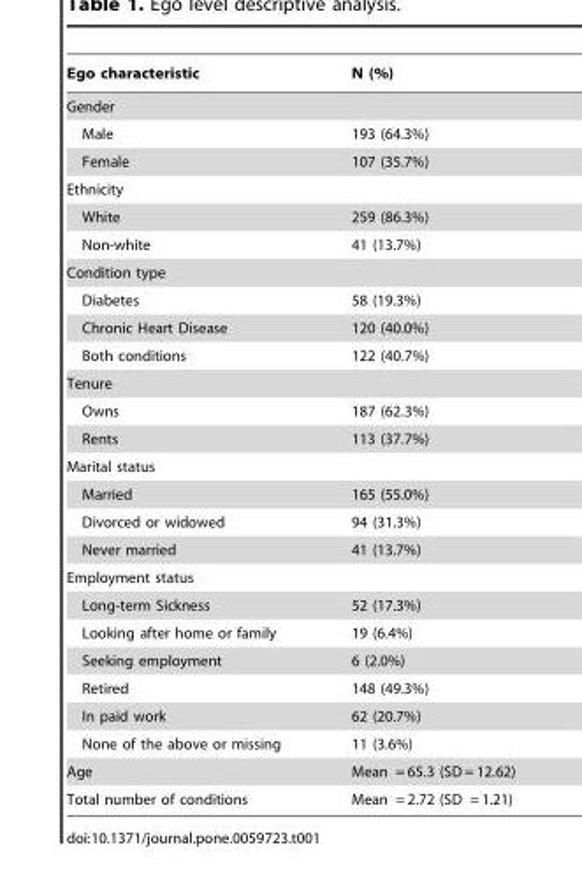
<table><thead><tr><td>Ego characteristic</td><td>N (%)</td></tr></thead><tbody><tr><td colspan="2">Gender</td></tr><tr><td>Male</td><td>193 (64.3%)</td></tr><tr><td>Female</td><td>107 (35.7%)</td></tr><tr><td colspan="2">Ethnicity</td></tr><tr><td>White</td><td>259 (86.3%)</td></tr><tr><td>Non-white</td><td>41 (13.7%)</td></tr><tr><td colspan="2">Condition type</td></tr><tr><td>Diabetes</td><td>58 (19.3%)</td></tr><tr><td>Chronic Heart Disease</td><td>120 (40.0%)</td></tr><tr><td>Both conditions</td><td>122 (40.7%)</td></tr><tr><td colspan="2">Tenure</td></tr><tr><td>Owns</td><td>187 (62.3%)</td></tr><tr><td>Rents</td><td>113 (37.7%)</td></tr><tr><td colspan="2">Marital status</td></tr><tr><td>Married</td><td>165 (55.0%)</td></tr><tr><td>Divorced or widowed</td><td>94 (31.3%)</td></tr><tr><td>Never married</td><td>41 (13.7%)</td></tr><tr><td colspan="2">Employment status</td></tr><tr><td>Long-term Sickness</td><td>52 (17.3%)</td></tr><tr><td>Looking after home or family</td><td>19 (6.4%)</td></tr><tr><td>Seeking employment</td><td>6 (2.0%)</td></tr><tr><td>Retired</td><td>148 (49.3%)</td></tr><tr><td>In paid work</td><td>62 (20.7%)</td></tr><tr><td>None of the above or missing</td><td>11 (3.6%)</td></tr><tr><td>Age</td><td>Mean = 65.3 (SD = 12.62)</td></tr><tr><td>Total number of conditions</td><td>Mean = 2.72 (SD = 1.21)</td></tr></tbody></table>